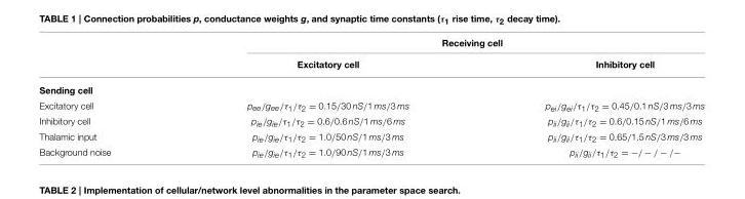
<table><thead><tr><td rowspan="2"></td><td colspan="2">Receiving cell</td></tr><tr><td>Excitatory cell</td><td>Inhibitory cell</td></tr></thead><tbody><tr><td colspan="3">Sending cell</td></tr><tr><td>Excitatory cell</td><td>p<sub>ee</sub>/g<sub>ee</sub>/τ<sub>1</sub>/τ<sub>2</sub> = 0.15/30 nS/1 ms/3 ms</td><td>p<sub>ei</sub>/g<sub>ei</sub>/τ<sub>1</sub>/τ<sub>2</sub> = 0.45/0.1 nS/3 ms/3 ms</td></tr><tr><td>Inhibitory cell</td><td>p<sub>ie</sub>/g<sub>ie</sub>/τ<sub>1</sub>/τ<sub>2</sub> = 0.6/0.6 nS/1 ms/6 ms</td><td>p<sub>ii</sub>/g<sub>ii</sub>/τ<sub>1</sub>/τ<sub>2</sub> = 0.6/0.15 nS/1 ms/6 ms</td></tr><tr><td>Thalamic input</td><td>p<sub>ie</sub>/g<sub>ie</sub>/τ<sub>1</sub>/τ<sub>2</sub> = 1.0/50 nS/1 ms/3 ms</td><td>p<sub>ii</sub>/g<sub>ii</sub>/τ<sub>1</sub>/τ<sub>2</sub> = 0.65/1.5 nS/3 ms/3 ms</td></tr><tr><td>Background noise</td><td>p<sub>ie</sub>/g<sub>ie</sub>/τ<sub>1</sub>/τ<sub>2</sub> = 1.0/90 nS/1 ms/3 ms</td><td>p<sub>ii</sub>/g<sub>ii</sub>/τ<sub>1</sub>/τ<sub>2</sub> = −/ − / − /−</td></tr></tbody></table>